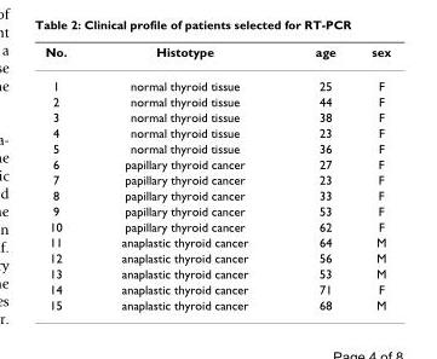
<table><thead><tr><td>No.</td><td>Histotype</td><td>age</td><td>sex</td></tr></thead><tbody><tr><td>1</td><td>normal thyroid tissue</td><td>25</td><td>F</td></tr><tr><td>2</td><td>normal thyroid tissue</td><td>44</td><td>F</td></tr><tr><td>3</td><td>normal thyroid tissue</td><td>38</td><td>F</td></tr><tr><td>4</td><td>normal thyroid tissue</td><td>23</td><td>F</td></tr><tr><td>5</td><td>normal thyroid tissue</td><td>36</td><td>F</td></tr><tr><td>6</td><td>papillary thyroid cancer</td><td>27</td><td>F</td></tr><tr><td>7</td><td>papillary thyroid cancer</td><td>23</td><td>F</td></tr><tr><td>8</td><td>papillary thyroid cancer</td><td>33</td><td>F</td></tr><tr><td>9</td><td>papillary thyroid cancer</td><td>53</td><td>F</td></tr><tr><td>10</td><td>papillary thyroid cancer</td><td>62</td><td>F</td></tr><tr><td>11</td><td>anaplastic thyroid cancer</td><td>64</td><td>M</td></tr><tr><td>12</td><td>anaplastic thyroid cancer</td><td>56</td><td>M</td></tr><tr><td>13</td><td>anaplastic thyroid cancer</td><td>53</td><td>M</td></tr><tr><td>14</td><td>anaplastic thyroid cancer</td><td>71</td><td>F</td></tr><tr><td>15</td><td>anaplastic thyroid cancer</td><td>68</td><td>M</td></tr></tbody></table>